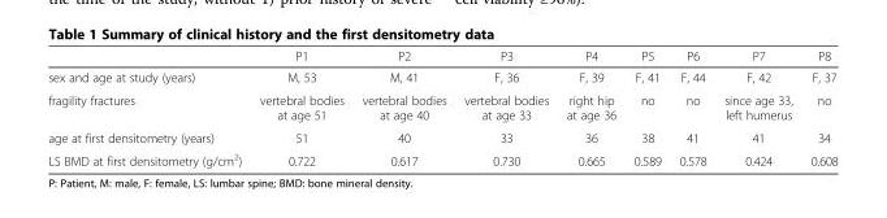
<table><thead><tr><td></td><td>P1</td><td>P2</td><td>P3</td><td>P4</td><td>P5</td><td>P6</td><td>P7</td><td>P8</td></tr></thead><tbody><tr><td>sex and age at study (years)</td><td>M, 53</td><td>M, 41</td><td>F, 36</td><td>F, 39</td><td>F, 41</td><td>F, 44</td><td>F, 42</td><td>F, 37</td></tr><tr><td>fragility fractures</td><td>vertebral bodies at age 51</td><td>vertebral bodies at age 40</td><td>vertebral bodies at age 33</td><td>right hip at age 36</td><td>no</td><td>no</td><td>since age 33, left humerus</td><td>no</td></tr><tr><td>age at first densitometry (years)</td><td>51</td><td>40</td><td>33</td><td>36</td><td>38</td><td>41</td><td>41</td><td>34</td></tr><tr><td>LS BMD at first densitometry (g/cm<sup>2</sup>)</td><td>0.722</td><td>0.617</td><td>0.730</td><td>0.665</td><td>0.589</td><td>0.578</td><td>0.424</td><td>0.608</td></tr></tbody></table>